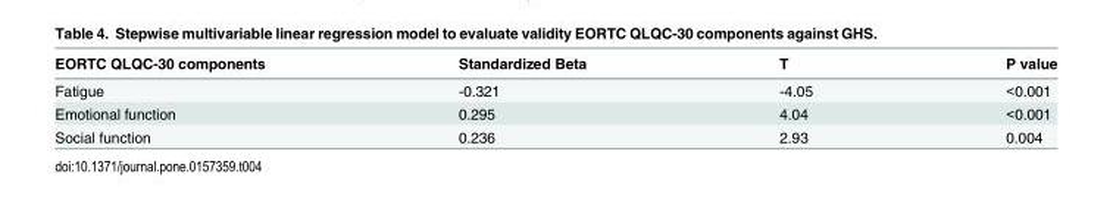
<table><thead><tr><td>EORTC QLQC-30 components</td><td>Standardized Beta</td><td>T</td><td>P value</td></tr></thead><tbody><tr><td>Fatigue</td><td>-0.321</td><td>-4.05</td><td>&lt;0.001</td></tr><tr><td>Emotional function</td><td>0.295</td><td>4.04</td><td>&lt;0.001</td></tr><tr><td>Social function</td><td>0.236</td><td>2.93</td><td>0.004</td></tr></tbody></table>